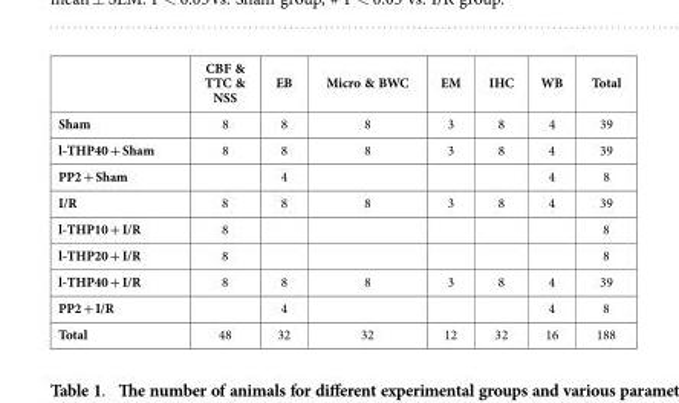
<table><thead><tr><td></td><td>CBF &amp; TTC &amp; NSS</td><td>EB</td><td>Micro &amp; BWC</td><td>EM</td><td>IHC</td><td>WB</td><td>Total</td></tr></thead><tbody><tr><td>Sham</td><td>8</td><td>8</td><td>8</td><td>3</td><td>8</td><td>4</td><td>39</td></tr><tr><td>l-THP40 + Sham</td><td>8</td><td>8</td><td>8</td><td>3</td><td>8</td><td>4</td><td>39</td></tr><tr><td>PP2 + Sham</td><td></td><td>4</td><td></td><td></td><td></td><td>4</td><td>8</td></tr><tr><td>I/R</td><td>8</td><td>8</td><td>8</td><td>3</td><td>8</td><td>4</td><td>39</td></tr><tr><td>l-THP10 + I/R</td><td>8</td><td></td><td></td><td></td><td></td><td></td><td>8</td></tr><tr><td>l-THP20 + I/R</td><td>8</td><td></td><td></td><td></td><td></td><td></td><td>8</td></tr><tr><td>l-THP40 + I/R</td><td>8</td><td>8</td><td>8</td><td>3</td><td>8</td><td>4</td><td>39</td></tr><tr><td>PP2 + I/R</td><td></td><td>4</td><td></td><td></td><td></td><td>4</td><td>8</td></tr><tr><td>Total</td><td>48</td><td>32</td><td>32</td><td>12</td><td>32</td><td>16</td><td>188</td></tr></tbody></table>